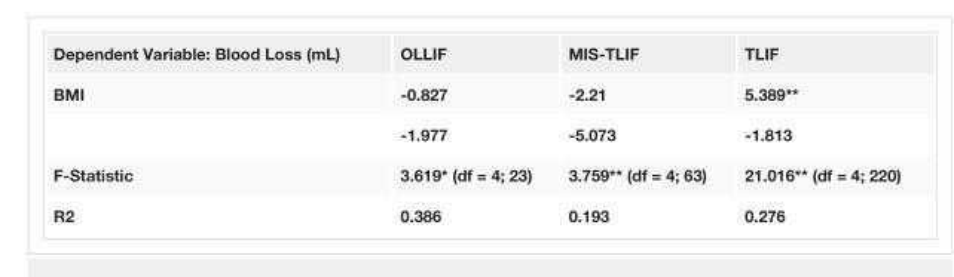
<table><tbody><tr><td>Dependent Variable: Blood Loss (mL)</td><td>OLLIF</td><td>MIS-TLIF</td><td>TLIF</td></tr><tr><td rowspan="2">BMI</td><td>-0.827</td><td>-2.21</td><td>5.389**</td></tr><tr><td>-1.977</td><td>-5.073</td><td>-1.813</td></tr><tr><td>F-Statistic</td><td>3.619* (df = 4; 23)</td><td>3.759** (df = 4; 63)</td><td>21.016** (df = 4; 220)</td></tr><tr><td>R2</td><td>0.386</td><td>0.193</td><td>0.276</td></tr></tbody></table>